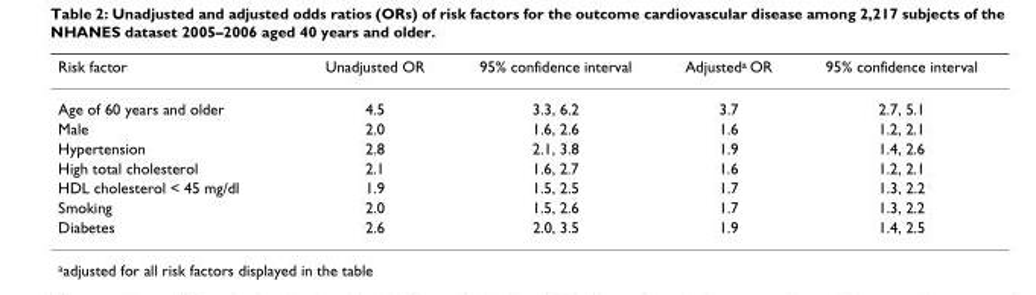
<table><thead><tr><td>Risk factor</td><td>Unadjusted OR</td><td>95% confidence interval</td><td>Adjusted<sup>a</sup> OR</td><td>95% confidence interval</td></tr></thead><tbody><tr><td>Age of 60 years and older</td><td>4.5</td><td>3.3, 6.2</td><td>3.7</td><td>2.7, 5.1</td></tr><tr><td>Male</td><td>2.0</td><td>1.6, 2.6</td><td>1.6</td><td>1.2, 2.1</td></tr><tr><td>Hypertension</td><td>2.8</td><td>2.1, 3.8</td><td>1.9</td><td>1.4, 2.6</td></tr><tr><td>High total cholesterol</td><td>2.1</td><td>1.6, 2.7</td><td>1.6</td><td>1.2, 2.1</td></tr><tr><td>HDL cholesterol &lt; 45 mg/dl</td><td>1.9</td><td>1.5, 2.5</td><td>1.7</td><td>1.3, 2.2</td></tr><tr><td>Smoking</td><td>2.0</td><td>1.5, 2.6</td><td>1.7</td><td>1.3, 2.2</td></tr><tr><td>Diabetes</td><td>2.6</td><td>2.0, 3.5</td><td>1.9</td><td>1.4, 2.5</td></tr></tbody></table>